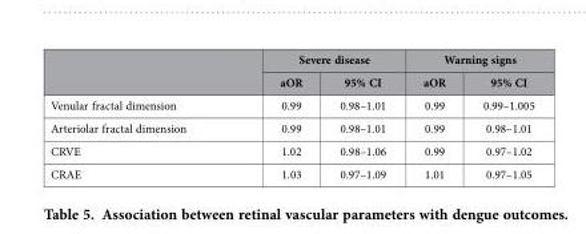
<table><thead><tr><td rowspan="2"></td><td colspan="2">Severe disease</td><td colspan="2">Warning signs</td></tr><tr><td>aOR</td><td>95% CI</td><td>aOR</td><td>95% CI</td></tr></thead><tbody><tr><td>Venular fractal dimension</td><td>0.99</td><td>0.98–1.01</td><td>0.99</td><td>0.99–1.005</td></tr><tr><td>Arteriolar fractal dimension</td><td>0.99</td><td>0.98–1.01</td><td>0.99</td><td>0.98–1.01</td></tr><tr><td>CRVE</td><td>1.02</td><td>0.98–1.06</td><td>0.99</td><td>0.97–1.02</td></tr><tr><td>CRAE</td><td>1.03</td><td>0.97–1.09</td><td>1.01</td><td>0.97–1.05</td></tr></tbody></table>